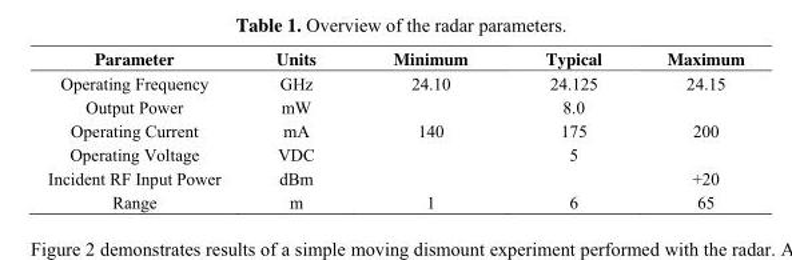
<table><thead><tr><td>Parameter</td><td>Units</td><td>Minimum</td><td>Typical</td><td>Maximum</td></tr></thead><tbody><tr><td>Operating Frequency</td><td>GHz</td><td>24.10</td><td>24.125</td><td>24.15</td></tr><tr><td>Output Power</td><td>mW</td><td></td><td>8.0</td><td></td></tr><tr><td>Operating Current</td><td>mA</td><td>140</td><td>175</td><td>200</td></tr><tr><td>Operating Voltage</td><td>VDC</td><td></td><td>5</td><td></td></tr><tr><td>Incident RF Input Power</td><td>dBm</td><td></td><td></td><td>+20</td></tr><tr><td>Range</td><td>m</td><td>1</td><td>6</td><td>65</td></tr></tbody></table>